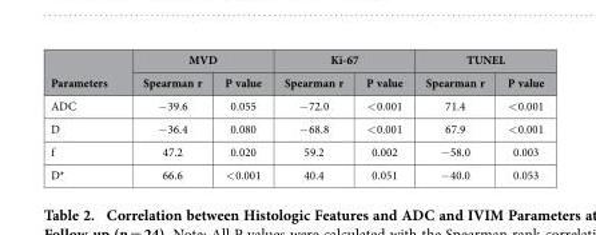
<table><thead><tr><td rowspan="2">Parameters</td><td colspan="2">MVD</td><td colspan="2">Ki-67</td><td colspan="2">TUNEL</td></tr><tr><td>Spearman r</td><td>P value</td><td>Spearman r</td><td>P value</td><td>Spearman r</td><td>P value</td></tr></thead><tbody><tr><td>ADC</td><td>− 39.6</td><td>0.055</td><td>− 72.0</td><td>&lt; 0.001</td><td>71.4</td><td>&lt; 0.001</td></tr><tr><td>D</td><td>− 36.4</td><td>0.080</td><td>− 68.8</td><td>&lt; 0.001</td><td>67.9</td><td>&lt; 0.001</td></tr><tr><td>f</td><td>47.2</td><td>0.020</td><td>59.2</td><td>0.002</td><td>− 58.0</td><td>0.003</td></tr><tr><td>D*</td><td>66.6</td><td>&lt; 0.001</td><td>40.4</td><td>0.051</td><td>− 40.0</td><td>0.053</td></tr></tbody></table>